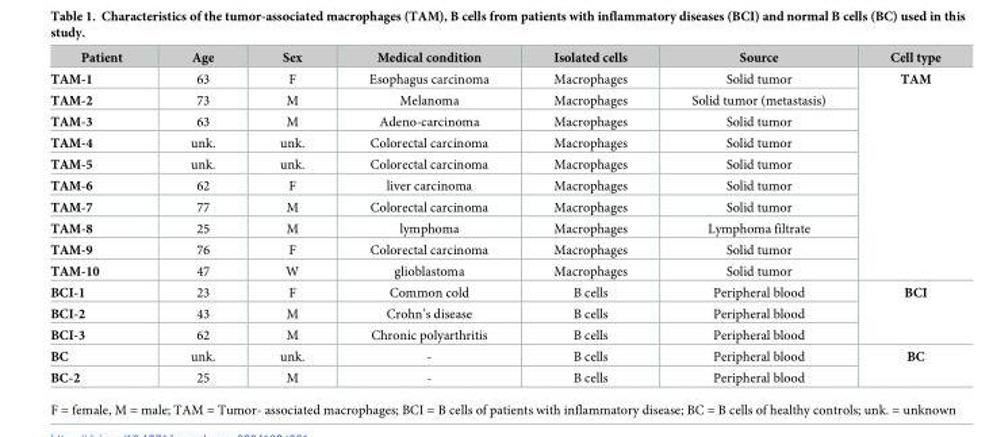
<table><thead><tr><td>Patient</td><td>Age</td><td>Sex</td><td>Medical condition</td><td>Isolated cells</td><td>Source</td><td>Cell type</td></tr></thead><tbody><tr><td>TAM-1</td><td>63</td><td>F</td><td>Esophagus carcinoma</td><td>Macrophages</td><td>Solid tumor</td><td rowspan="10">TAM</td></tr><tr><td>TAM-2</td><td>73</td><td>M</td><td>Melanoma</td><td>Macrophages</td><td>Solid tumor (metastasis)</td></tr><tr><td>TAM-3</td><td>63</td><td>M</td><td>Adeno-carcinoma</td><td>Macrophages</td><td>Solid tumor</td></tr><tr><td>TAM-4</td><td>unk.</td><td>unk.</td><td>Colorectal carcinoma</td><td>Macrophages</td><td>Solid tumor</td></tr><tr><td>TAM-5</td><td>unk.</td><td>unk.</td><td>Colorectal carcinoma</td><td>Macrophages</td><td>Solid tumor</td></tr><tr><td>TAM-6</td><td>62</td><td>F</td><td>liver carcinoma</td><td>Macrophages</td><td>Solid tumor</td></tr><tr><td>TAM-7</td><td>77</td><td>M</td><td>Colorectal carcinoma</td><td>Macrophages</td><td>Solid tumor</td></tr><tr><td>TAM-8</td><td>25</td><td>M</td><td>lymphoma</td><td>Macrophages</td><td>Lymphoma filtrate</td></tr><tr><td>TAM-9</td><td>76</td><td>F</td><td>Colorectal carcinoma</td><td>Macrophages</td><td>Solid tumor</td></tr><tr><td>TAM-10</td><td>47</td><td>W</td><td>glioblastoma</td><td>Macrophages</td><td>Solid tumor</td></tr><tr><td>BCI-1</td><td>23</td><td>F</td><td>Common cold</td><td>B cells</td><td>Peripheral blood</td><td rowspan="3">BCI</td></tr><tr><td>BCI-2</td><td>43</td><td>M</td><td>Crohn’s disease</td><td>B cells</td><td>Peripheral blood</td></tr><tr><td>BCI-3</td><td>62</td><td>M</td><td>Chronic polyarthritis</td><td>B cells</td><td>Peripheral blood</td></tr><tr><td>BC</td><td>unk.</td><td>unk.</td><td>-</td><td>B cells</td><td>Peripheral blood</td><td rowspan="2">BC</td></tr><tr><td>BC-2</td><td>25</td><td>M</td><td>-</td><td>B cells</td><td>Peripheral blood</td></tr></tbody></table>